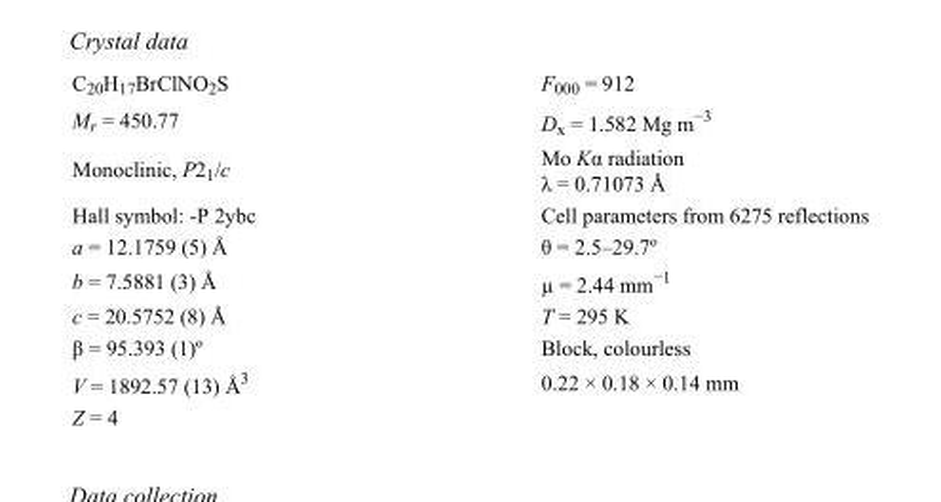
<table><tbody><tr><td>C<sub>20</sub>H<sub>17</sub>BrClNO<sub>2</sub>S</td><td>F000 = 912</td></tr><tr><td>M<sub>r</sub> = 450.77</td><td>D<sub>x</sub> = 1.582 Mg m<sup>−3</sup></td></tr><tr><td>Monoclinic, P2<sub>1</sub>/c</td><td>Mo Kα radiation λ = 0.71073 Å</td></tr><tr><td>Hall symbol: -P 2ybc</td><td>Cell parameters from 6275 reflections</td></tr><tr><td>a = 12.1759 (5) Å</td><td>θ = 2.5–29.7º</td></tr><tr><td>b = 7.5881 (3) Å</td><td>µ = 2.44 mm<sup>−1</sup></td></tr><tr><td>c = 20.5752 (8) Å</td><td>T = 295 K</td></tr><tr><td>β = 95.393 (1)º</td><td>Block, colourless</td></tr><tr><td>V = 1892.57 (13) Å<sup>3</sup></td><td>0.22 × 0.18 × 0.14 mm</td></tr><tr><td>Z = 4</td><td></td></tr></tbody></table>